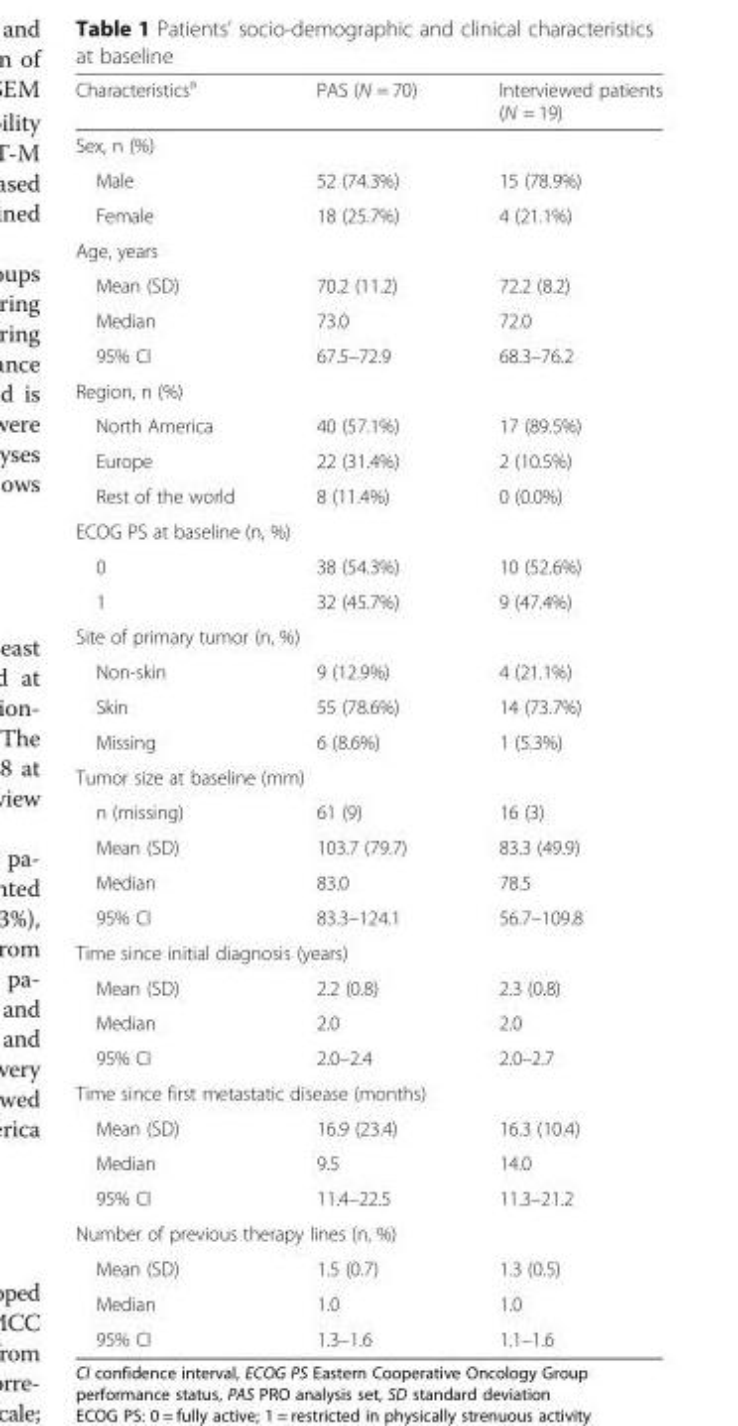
<table><thead><tr><td>Characteristics<sup>a</sup></td><td>PAS (N = 70)</td><td>Interviewed patients (N = 19)</td></tr></thead><tbody><tr><td colspan="3">Sex, n (%)</td></tr><tr><td>Male</td><td>52 (74.3%)</td><td>15 (78.9%)</td></tr><tr><td>Female</td><td>18 (25.7%)</td><td>4 (21.1%)</td></tr><tr><td colspan="3">Age, years</td></tr><tr><td>Mean (SD)</td><td>70.2 (11.2)</td><td>72.2 (8.2)</td></tr><tr><td>Median</td><td>73.0</td><td>72.0</td></tr><tr><td>95% CI</td><td>67.5–72.9</td><td>68.3–76.2</td></tr><tr><td colspan="3">Region, n (%)</td></tr><tr><td>North America</td><td>40 (57.1%)</td><td>17 (89.5%)</td></tr><tr><td>Europe</td><td>22 (31.4%)</td><td>2 (10.5%)</td></tr><tr><td>Rest of the world</td><td>8 (11.4%)</td><td>0 (0.0%)</td></tr><tr><td colspan="3">ECOG PS at baseline (n, %)</td></tr><tr><td>0</td><td>38 (54.3%)</td><td>10 (52.6%)</td></tr><tr><td>1</td><td>32 (45.7%)</td><td>9 (47.4%)</td></tr><tr><td colspan="3">Site of primary tumor (n, %)</td></tr><tr><td>Non-skin</td><td>9 (12.9%)</td><td>4 (21.1%)</td></tr><tr><td>Skin</td><td>55 (78.6%)</td><td>14 (73.7%)</td></tr><tr><td>Missing</td><td>6 (8.6%)</td><td>1 (5.3%)</td></tr><tr><td colspan="3">Tumor size at baseline (mm)</td></tr><tr><td>n (missing)</td><td>61 (9)</td><td>16 (3)</td></tr><tr><td>Mean (SD)</td><td>103.7 (79.7)</td><td>83.3 (49.9)</td></tr><tr><td>Median</td><td>83.0</td><td>78.5</td></tr><tr><td>95% CI</td><td>83.3–124.1</td><td>56.7–109.8</td></tr><tr><td colspan="3">Time since initial diagnosis (years)</td></tr><tr><td>Mean (SD)</td><td>2.2 (0.8)</td><td>2.3 (0.8)</td></tr><tr><td>Median</td><td>2.0</td><td>2.0</td></tr><tr><td>95% CI</td><td>2.0–2.4</td><td>2.0–2.7</td></tr><tr><td colspan="3">Time since first metastatic disease (months)</td></tr><tr><td>Mean (SD)</td><td>16.9 (23.4)</td><td>16.3 (10.4)</td></tr><tr><td>Median</td><td>9.5</td><td>14.0</td></tr><tr><td>95% CI</td><td>11.4–22.5</td><td>11.3–21.2</td></tr><tr><td colspan="3">Number of previous therapy lines (n, %)</td></tr><tr><td>Mean (SD)</td><td>1.5 (0.7)</td><td>1.3 (0.5)</td></tr><tr><td>Median</td><td>1.0</td><td>1.0</td></tr><tr><td>95% CI</td><td>1.3–1.6</td><td>1.1–1.6</td></tr></tbody></table>